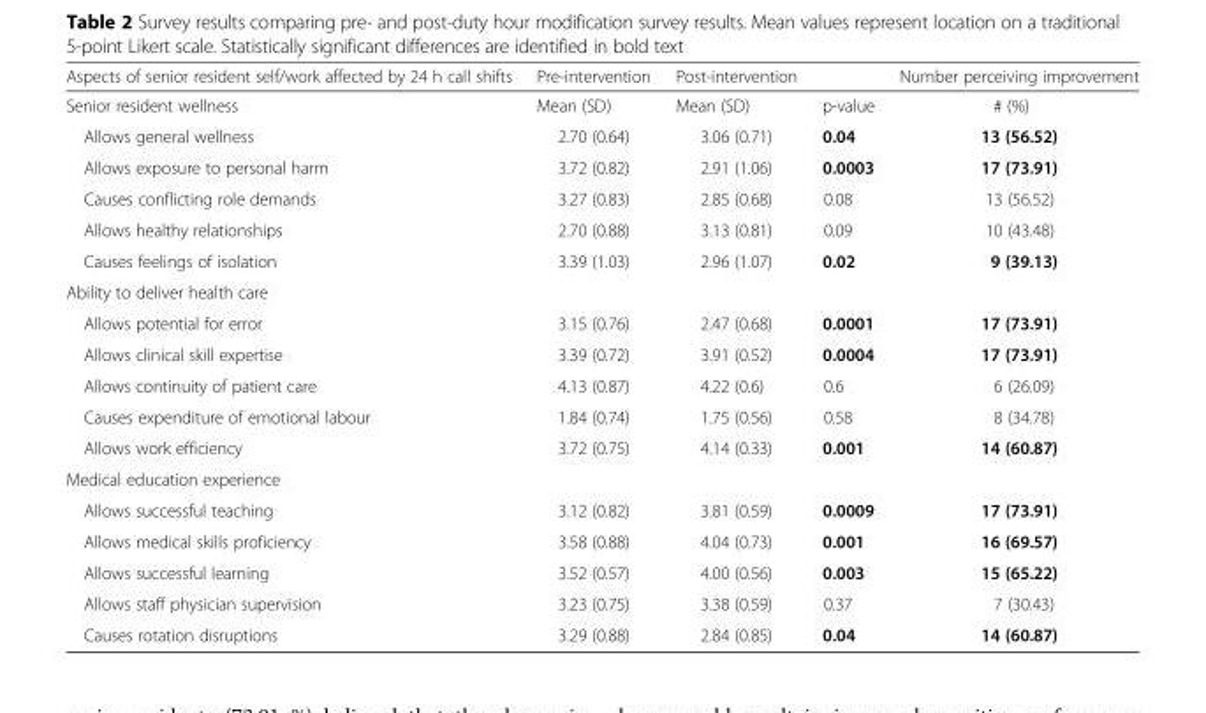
<table><thead><tr><td>Aspects of senior resident self/work affected by 24 h call shifts</td><td>Pre-intervention</td><td>Post-intervention</td><td></td><td>Number perceiving improvement</td></tr></thead><tbody><tr><td>Senior resident wellness</td><td>Mean (SD)</td><td>Mean (SD)</td><td>p-value</td><td># (%)</td></tr><tr><td>Allows general wellness</td><td>2.70 (0.64)</td><td>3.06 (0.71)</td><td>0.04</td><td>13 (56.52)</td></tr><tr><td>Allows exposure to personal harm</td><td>3.72 (0.82)</td><td>2.91 (1.06)</td><td>0.0003</td><td>17 (73.91)</td></tr><tr><td>Causes conflicting role demands</td><td>3.27 (0.83)</td><td>2.85 (0.68)</td><td>0.08</td><td>13 (56.52)</td></tr><tr><td>Allows healthy relationships</td><td>2.70 (0.88)</td><td>3.13 (0.81)</td><td>0.09</td><td>10 (43.48)</td></tr><tr><td>Causes feelings of isolation</td><td>3.39 (1.03)</td><td>2.96 (1.07)</td><td>0.02</td><td>9 (39.13)</td></tr><tr><td colspan="5">Ability to deliver health care</td></tr><tr><td>Allows potential for error</td><td>3.15 (0.76)</td><td>2.47 (0.68)</td><td>0.0001</td><td>17 (73.91)</td></tr><tr><td>Allows clinical skill expertise</td><td>3.39 (0.72)</td><td>3.91 (0.52)</td><td>0.0004</td><td>17 (73.91)</td></tr><tr><td>Allows continuity of patient care</td><td>4.13 (0.87)</td><td>4.22 (0.6)</td><td>0.6</td><td>6 (26.09)</td></tr><tr><td>Causes expenditure of emotional labour</td><td>1.84 (0.74)</td><td>1.75 (0.56)</td><td>0.58</td><td>8 (34.78)</td></tr><tr><td>Allows work efficiency</td><td>3.72 (0.75)</td><td>4.14 (0.33)</td><td>0.001</td><td>14 (60.87)</td></tr><tr><td colspan="5">Medical education experience</td></tr><tr><td>Allows successful teaching</td><td>3.12 (0.82)</td><td>3.81 (0.59)</td><td>0.0009</td><td>17 (73.91)</td></tr><tr><td>Allows medical skills proficiency</td><td>3.58 (0.88)</td><td>4.04 (0.73)</td><td>0.001</td><td>16 (69.57)</td></tr><tr><td>Allows successful learning</td><td>3.52 (0.57)</td><td>4.00 (0.56)</td><td>0.003</td><td>15 (65.22)</td></tr><tr><td>Allows staff physician supervision</td><td>3.23 (0.75)</td><td>3.38 (0.59)</td><td>0.37</td><td>7 (30.43)</td></tr><tr><td>Causes rotation disruptions</td><td>3.29 (0.88)</td><td>2.84 (0.85)</td><td>0.04</td><td>14 (60.87)</td></tr></tbody></table>